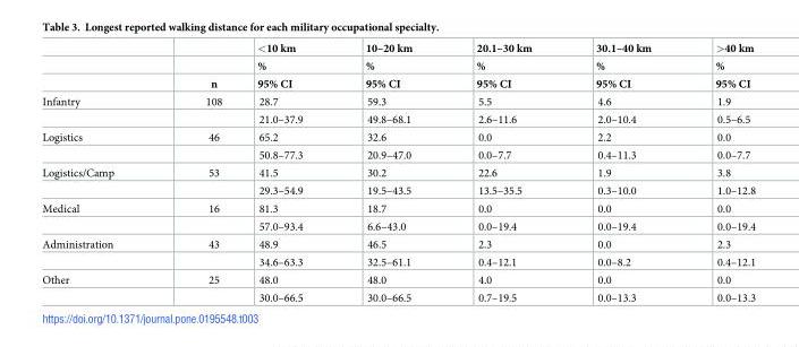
<table><thead><tr><td rowspan="3"></td><td rowspan="3">n</td><td rowspan="3">&lt;10 km % 95% CI</td><td rowspan="3">10–20 km % 95% CI</td><td rowspan="3">20.1–30 km % 95% CI</td><td rowspan="3">30.1–40 km % 95% CI</td><td rowspan="3">&gt;40 km % 95% CI</td></tr><tr></tr><tr></tr></thead><tbody><tr><td rowspan="2">Infantry</td><td>108</td><td>28.7</td><td>59.3</td><td>5.5</td><td>4.6</td><td>1.9</td></tr><tr><td></td><td>21.0–37.9</td><td>49.8–68.1</td><td>2.6–11.6</td><td>2.0–10.4</td><td>0.5–6.5</td></tr><tr><td rowspan="2">Logistics</td><td>46</td><td>65.2</td><td>32.6</td><td>0.0</td><td>2.2</td><td>0.0</td></tr><tr><td></td><td>50.8–77.3</td><td>20.9–47.0</td><td>0.0–7.7</td><td>0.4–11.3</td><td>0.0–7.7</td></tr><tr><td rowspan="2">Logistics/Camp</td><td>53</td><td>41.5</td><td>30.2</td><td>22.6</td><td>1.9</td><td>3.8</td></tr><tr><td></td><td>29.3–54.9</td><td>19.5–43.5</td><td>13.5–35.5</td><td>0.3–10.0</td><td>1.0–12.8</td></tr><tr><td rowspan="2">Medical</td><td>16</td><td>81.3</td><td>18.7</td><td>0.0</td><td>0.0</td><td>0.0</td></tr><tr><td></td><td>57.0–93.4</td><td>6.6–43.0</td><td>0.0–19.4</td><td>0.0–19.4</td><td>0.0–19.4</td></tr><tr><td rowspan="2">Administration</td><td>43</td><td>48.9</td><td>46.5</td><td>2.3</td><td>0.0</td><td>2.3</td></tr><tr><td></td><td>34.6–63.3</td><td>32.5–61.1</td><td>0.4–12.1</td><td>0.0–8.2</td><td>0.4–12.1</td></tr><tr><td rowspan="2">Other</td><td>25</td><td>48.0</td><td>48.0</td><td>4.0</td><td>0.0</td><td>0.0</td></tr><tr><td></td><td>30.0–66.5</td><td>30.0–66.5</td><td>0.7–19.5</td><td>0.0–13.3</td><td>0.0–13.3</td></tr></tbody></table>